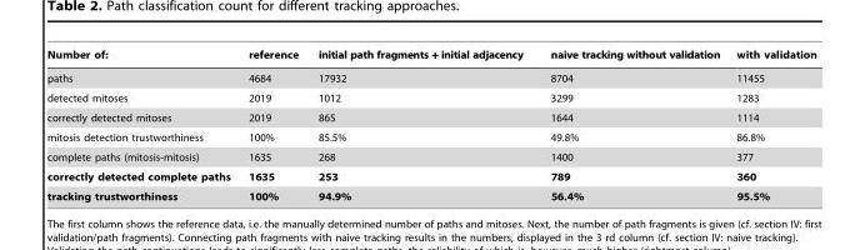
<table><thead><tr><td>Number of:</td><td>reference</td><td>initial path fragments + initial adjacency</td><td>naive tracking without validation</td><td>with validation</td></tr></thead><tbody><tr><td>paths</td><td>4684</td><td>17932</td><td>8704</td><td>11455</td></tr><tr><td>detected mitoses</td><td>2019</td><td>1012</td><td>3299</td><td>1283</td></tr><tr><td>correctly detected mitoses</td><td>2019</td><td>865</td><td>1644</td><td>1114</td></tr><tr><td>mitosis detection trustworthiness</td><td>100%</td><td>85.5%</td><td>49.8%</td><td>86.8%</td></tr><tr><td>complete paths (mitosis-mitosis)</td><td>1635</td><td>268</td><td>1400</td><td>377</td></tr><tr><td>correctly detected complete paths</td><td>1635</td><td>253</td><td>789</td><td>360</td></tr><tr><td>tracking trustworthiness</td><td>100%</td><td>94.9%</td><td>56.4%</td><td>95.5%</td></tr></tbody></table>